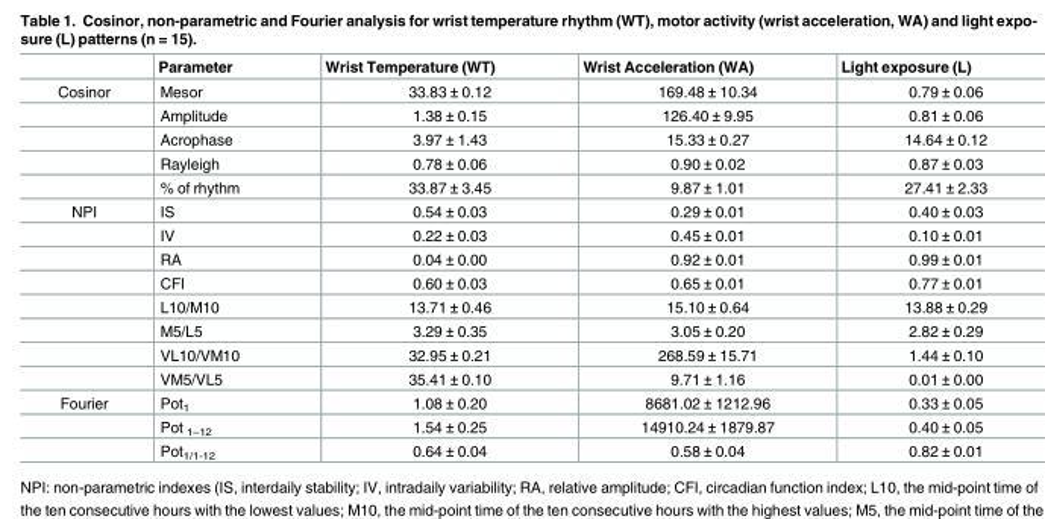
<table><thead><tr><td></td><td>Parameter</td><td>Wrist Temperature (WT)</td><td>Wrist Acceleration (WA)</td><td>Light exposure (L)</td></tr></thead><tbody><tr><td rowspan="5">Cosinor</td><td>Mesor</td><td>33.83 ± 0.12</td><td>169.48 ± 10.34</td><td>0.79 ± 0.06</td></tr><tr><td>Amplitude</td><td>1.38 ± 0.15</td><td>126.40 ± 9.95</td><td>0.81 ± 0.06</td></tr><tr><td>Acrophase</td><td>3.97 ± 1.43</td><td>15.33 ± 0.27</td><td>14.64 ± 0.12</td></tr><tr><td>Rayleigh</td><td>0.78 ± 0.06</td><td>0.90 ± 0.02</td><td>0.87 ± 0.03</td></tr><tr><td>% of rhythm</td><td>33.87 ± 3.45</td><td>9.87 ± 1.01</td><td>27.41 ± 2.33</td></tr><tr><td rowspan="8">NPI</td><td>IS</td><td>0.54 ± 0.03</td><td>0.29 ± 0.01</td><td>0.40 ± 0.03</td></tr><tr><td>IV</td><td>0.22 ± 0.03</td><td>0.45 ± 0.01</td><td>0.10 ± 0.01</td></tr><tr><td>RA</td><td>0.04 ± 0.00</td><td>0.92 ± 0.01</td><td>0.99 ± 0.01</td></tr><tr><td>CFI</td><td>0.60 ± 0.03</td><td>0.65 ± 0.01</td><td>0.77 ± 0.01</td></tr><tr><td>L10/M10</td><td>13.71 ± 0.46</td><td>15.10 ± 0.64</td><td>13.88 ± 0.29</td></tr><tr><td>M5/L5</td><td>3.29 ± 0.35</td><td>3.05 ± 0.20</td><td>2.82 ± 0.29</td></tr><tr><td>VL10/VM10</td><td>32.95 ± 0.21</td><td>268.59 ± 15.71</td><td>1.44 ± 0.10</td></tr><tr><td>VM5/VL5</td><td>35.41 ± 0.10</td><td>9.71 ± 1.16</td><td>0.01 ± 0.00</td></tr><tr><td rowspan="3">Fourier</td><td>Pot<sub>1</sub></td><td>1.08 ± 0.20</td><td>8681.02 ± 1212.96</td><td>0.33 ± 0.05</td></tr><tr><td>Pot <sub>1–12</sub></td><td>1.54 ± 0.25</td><td>14910.24 ± 1879.87</td><td>0.40 ± 0.05</td></tr><tr><td>Pot<sub>1/1-12</sub></td><td>0.64 ± 0.04</td><td>0.58 ± 0.04</td><td>0.82 ± 0.01</td></tr></tbody></table>